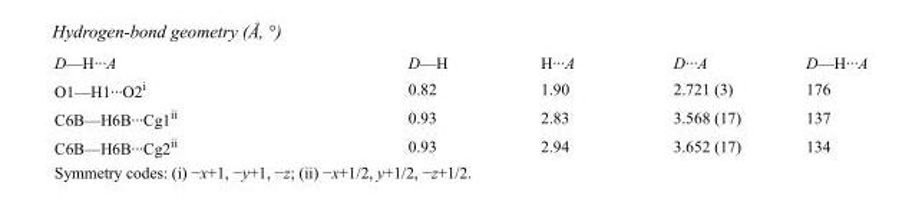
<table><tbody><tr><td>D—H···A</td><td>D—H</td><td>H···A</td><td>D···A</td><td>D—H···A</td></tr><tr><td>O1—H1···O2<sup>i</sup></td><td>0.82</td><td>1.90</td><td>2.721 (3)</td><td>176</td></tr><tr><td>C6B—H6B···Cg1<sup>ii</sup></td><td>0.93</td><td>2.83</td><td>3.568 (17)</td><td>137</td></tr><tr><td>C6B—H6B···Cg2<sup>ii</sup></td><td>0.93</td><td>2.94</td><td>3.652 (17)</td><td>134</td></tr></tbody></table>